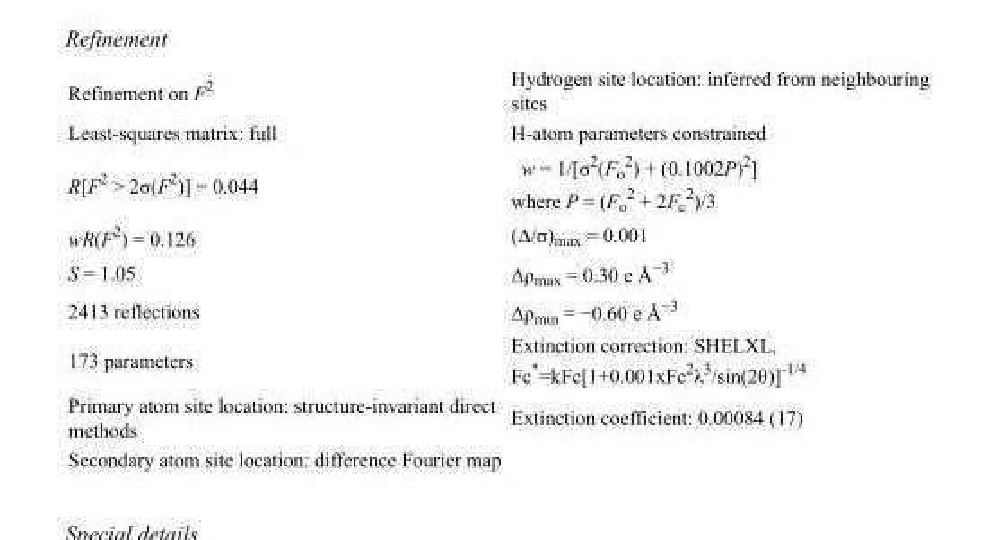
<table><tbody><tr><td>Refinement on F<sup>2</sup></td><td>Hydrogen site location: inferred from neighbouring sites</td></tr><tr><td>Least-squares matrix: full</td><td>H-atom parameters constrained</td></tr><tr><td>R[F<sup>2</sup> &gt; 2σ(F<sup>2</sup>)] = 0.044</td><td>w = 1/[σ<sup>2</sup>(F<sub>o</sub> <sup>2</sup>) + (0.1002P)<sup>2</sup>] where P = (F<sub>o</sub> <sup>2</sup> + 2F<sub>c</sub> <sup>2</sup>)/3</td></tr><tr><td>wR(F<sup>2</sup>) = 0.126</td><td>(Δ/σ)<sub>max</sub> = 0.001</td></tr><tr><td>S = 1.05</td><td>Δρ<sub>max</sub> = 0.30 e Å<sup>−3</sup></td></tr><tr><td>2413 reflections</td><td>Δρ<sub>min</sub> = −0.60 e Å<sup>−3</sup></td></tr><tr><td>173 parameters</td><td>Extinction correction: SHELXL, Fc*=kFc[1+0.001xFc<sup>2</sup>λ<sup>3</sup>/sin(2θ)]<sup>-1/4</sup></td></tr><tr><td>Primary atom site location: structure-invariant direct methods</td><td>Extinction coefficient: 0.00084 (17)</td></tr><tr><td>Secondary atom site location: difference Fourier map</td><td></td></tr></tbody></table>